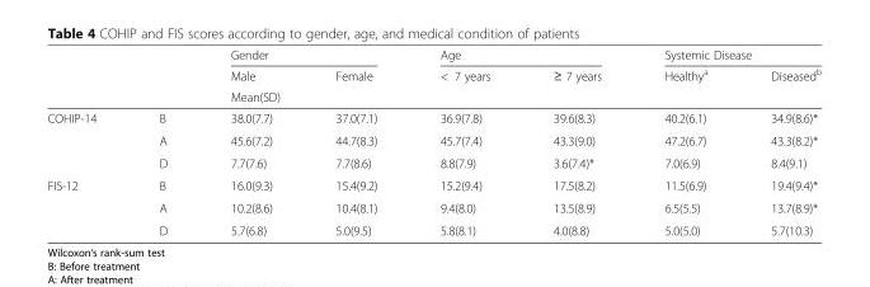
<table><thead><tr><td rowspan="3"></td><td rowspan="3"></td><td colspan="2">Gender</td><td colspan="2">Age</td><td colspan="2">Systemic Disease</td></tr><tr><td>Male</td><td>Female</td><td>&lt; 7 years</td><td>≥ 7 years</td><td>Healthy<sup>a</sup></td><td>Diseased<sup>b</sup></td></tr><tr><td colspan="6">Mean(SD)</td></tr></thead><tbody><tr><td rowspan="3">COHIP-14</td><td>B</td><td>38.0(7.7)</td><td>37.0(7.1)</td><td>36.9(7.8)</td><td>39.6(8.3)</td><td>40.2(6.1)</td><td>34.9(8.6)*</td></tr><tr><td>A</td><td>45.6(7.2)</td><td>44.7(8.3)</td><td>45.7(7.4)</td><td>43.3(9.0)</td><td>47.2(6.7)</td><td>43.3(8.2)*</td></tr><tr><td>D</td><td>7.7(7.6)</td><td>7.7(8.6)</td><td>8.8(7.9)</td><td>3.6(7.4)*</td><td>7.0(6.9)</td><td>8.4(9.1)</td></tr><tr><td rowspan="3">FIS-12</td><td>B</td><td>16.0(9.3)</td><td>15.4(9.2)</td><td>15.2(9.4)</td><td>17.5(8.2)</td><td>11.5(6.9)</td><td>19.4(9.4)*</td></tr><tr><td>A</td><td>10.2(8.6)</td><td>10.4(8.1)</td><td>9.4(8.0)</td><td>13.5(8.9)</td><td>6.5(5.5)</td><td>13.7(8.9)*</td></tr><tr><td>D</td><td>5.7(6.8)</td><td>5.0(9.5)</td><td>5.8(8.1)</td><td>4.0(8.8)</td><td>5.0(5.0)</td><td>5.7(10.3)</td></tr></tbody></table>